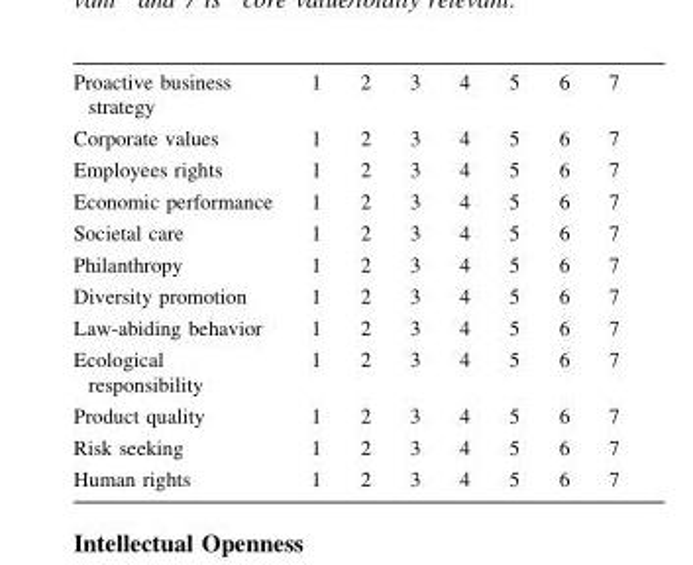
<table><tbody><tr><td>Proactive business strategy</td><td>1</td><td>2</td><td>3</td><td>4</td><td>5</td><td>6</td><td>7</td></tr><tr><td>Corporate values</td><td>1</td><td>2</td><td>3</td><td>4</td><td>5</td><td>6</td><td>7</td></tr><tr><td>Employees rights</td><td>1</td><td>2</td><td>3</td><td>4</td><td>5</td><td>6</td><td>7</td></tr><tr><td>Economic performance</td><td>1</td><td>2</td><td>3</td><td>4</td><td>5</td><td>6</td><td>7</td></tr><tr><td>Societal care</td><td>1</td><td>2</td><td>3</td><td>4</td><td>5</td><td>6</td><td>7</td></tr><tr><td>Philanthropy</td><td>1</td><td>2</td><td>3</td><td>4</td><td>5</td><td>6</td><td>7</td></tr><tr><td>Diversity promotion</td><td>1</td><td>2</td><td>3</td><td>4</td><td>5</td><td>6</td><td>7</td></tr><tr><td>Law-abiding behavior</td><td>1</td><td>2</td><td>3</td><td>4</td><td>5</td><td>6</td><td>7</td></tr><tr><td>Ecological responsibility</td><td>1</td><td>2</td><td>3</td><td>4</td><td>5</td><td>6</td><td>7</td></tr><tr><td>Product quality</td><td>1</td><td>2</td><td>3</td><td>4</td><td>5</td><td>6</td><td>7</td></tr><tr><td>Risk seeking</td><td>1</td><td>2</td><td>3</td><td>4</td><td>5</td><td>6</td><td>7</td></tr><tr><td>Human rights</td><td>1</td><td>2</td><td>3</td><td>4</td><td>5</td><td>6</td><td>7</td></tr></tbody></table>